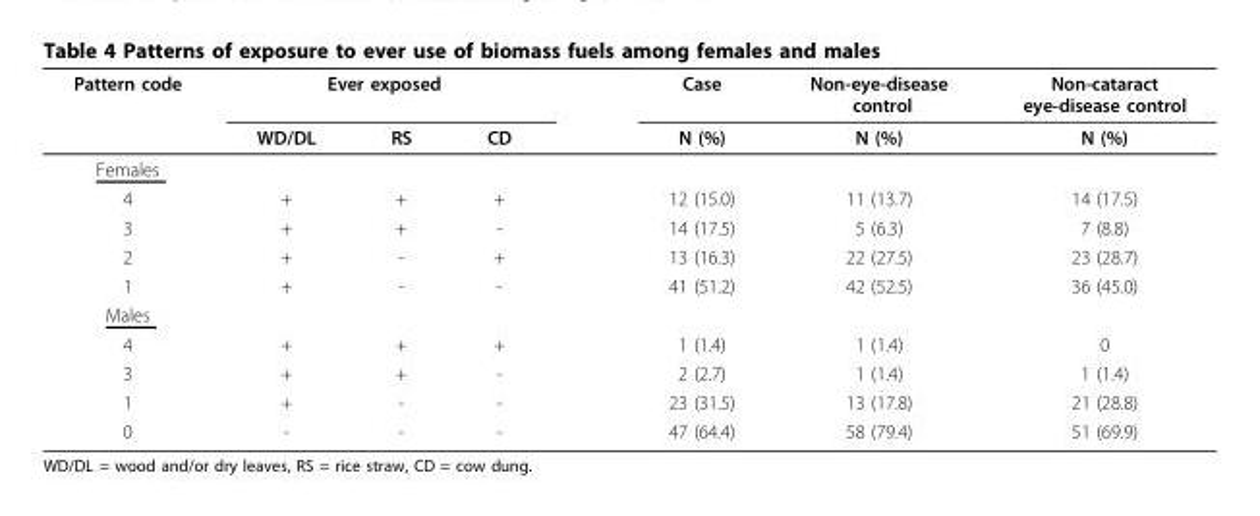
<table><thead><tr><td rowspan="2">Pattern code</td><td colspan="3">Ever exposed</td><td rowspan="2">Case N (%)</td><td rowspan="2">Non-eye-disease control N (%)</td><td rowspan="2">Non-cataract eye-disease control N (%)</td></tr><tr><td>WD/DL</td><td>RS</td><td>CD</td></tr></thead><tbody><tr><td colspan="7">Females</td></tr><tr><td>4</td><td>+</td><td>+</td><td>+</td><td>12 (15.0)</td><td>11 (13.7)</td><td>14 (17.5)</td></tr><tr><td>3</td><td>+</td><td>+</td><td>-</td><td>14 (17.5)</td><td>5 (6.3)</td><td>7 (8.8)</td></tr><tr><td>2</td><td>+</td><td>-</td><td>+</td><td>13 (16.3)</td><td>22 (27.5)</td><td>23 (28.7)</td></tr><tr><td>1</td><td>+</td><td>-</td><td>-</td><td>41 (51.2)</td><td>42 (52.5)</td><td>36 (45.0)</td></tr><tr><td colspan="7">Males</td></tr><tr><td>4</td><td>+</td><td>+</td><td>+</td><td>1 (1.4)</td><td>1 (1.4)</td><td>0</td></tr><tr><td>3</td><td>+</td><td>+</td><td>-</td><td>2 (2.7)</td><td>1 (1.4)</td><td>1 (1.4)</td></tr><tr><td>1</td><td>+</td><td>-</td><td>-</td><td>23 (31.5)</td><td>13 (17.8)</td><td>21 (28.8)</td></tr><tr><td>0</td><td>-</td><td>-</td><td>-</td><td>47 (64.4)</td><td>58 (79.4)</td><td>51 (69.9)</td></tr></tbody></table>